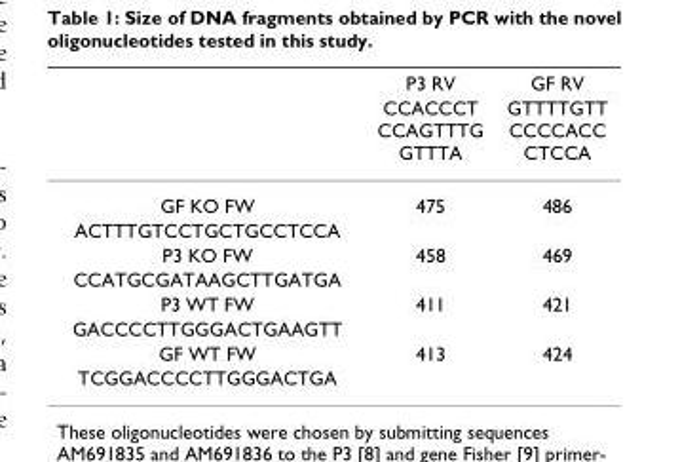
<table><thead><tr><td rowspan="2"></td><td rowspan="2">P3 RV CCACCCT CCAGTTTG GTTTA</td><td rowspan="2">GF RV GTTTTGTT CCCCACC CTCCA</td></tr><tr></tr></thead><tbody><tr><td>GF KO FW</td><td>475</td><td>486</td></tr><tr><td colspan="3">ACTTTGTCCTGCTGCCTCCA</td></tr><tr><td>P3 KO FW</td><td>458</td><td>469</td></tr><tr><td colspan="3">CCATGCGATAAGCTTGATGA</td></tr><tr><td>P3 WT FW</td><td>411</td><td>421</td></tr><tr><td colspan="3">GACCCCTTGGGACTGAAGTT</td></tr><tr><td>GF WT FW</td><td>413</td><td>424</td></tr><tr><td>TCGGACCCCTTGGGACTGA</td><td></td><td></td></tr></tbody></table>